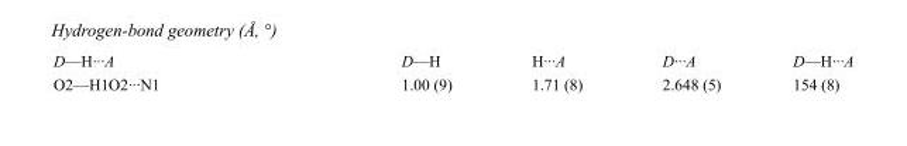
<table><tbody><tr><td>D—H···A</td><td>D—H</td><td>H···A</td><td>D···A</td><td>D—H···A</td></tr><tr><td>O2—H1O2···N1</td><td>1.00 (9)</td><td>1.71 (8)</td><td>2.648 (5)</td><td>154 (8)</td></tr></tbody></table>